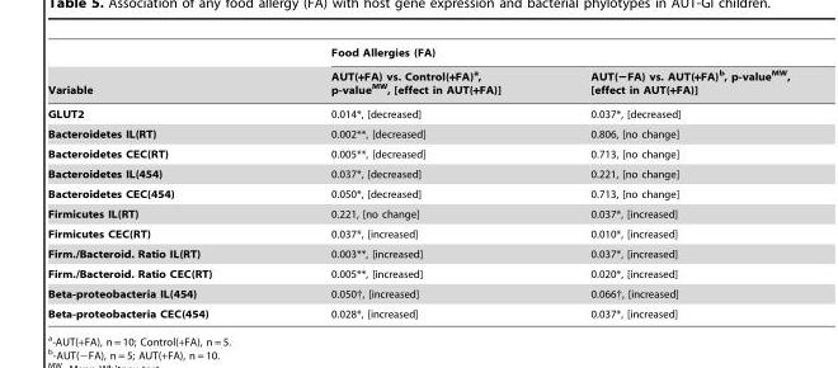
<table><thead><tr><td rowspan="2">Variable</td><td colspan="2">Food Allergies (FA)</td></tr><tr><td>AUT(+FA) vs. Control(+FA)<sup>a</sup>, p-value<sup>MW</sup>, [effect in AUT(+FA)]</td><td>AUT(−FA) vs. AUT(+FA)<sup>b</sup>, p-value<sup>MW</sup>, [effect in AUT(+FA)]</td></tr></thead><tbody><tr><td>GLUT2</td><td>0.014*, [decreased]</td><td>0.037*, [decreased]</td></tr><tr><td>Bacteroidetes IL(RT)</td><td>0.002**, [decreased]</td><td>0.806, [no change]</td></tr><tr><td>Bacteroidetes CEC(RT)</td><td>0.005**, [decreased]</td><td>0.713, [no change]</td></tr><tr><td>Bacteroidetes IL(454)</td><td>0.037*, [decreased]</td><td>0.221, [no change]</td></tr><tr><td>Bacteroidetes CEC(454)</td><td>0.050*, [decreased]</td><td>0.713, [no change]</td></tr><tr><td>Firmicutes IL(RT)</td><td>0.221, [no change]</td><td>0.037*, [increased]</td></tr><tr><td>Firmicutes CEC(RT)</td><td>0.037*, [increased]</td><td>0.010*, [increased]</td></tr><tr><td>Firm./Bacteroid. Ratio IL(RT)</td><td>0.003**, [increased]</td><td>0.037*, [increased]</td></tr><tr><td>Firm./Bacteroid. Ratio CEC(RT)</td><td>0.005**, [increased]</td><td>0.020*, [increased]</td></tr><tr><td>Beta-proteobacteria IL(454)</td><td>0.050†, [increased]</td><td>0.066†, [increased]</td></tr><tr><td>Beta-proteobacteria CEC(454)</td><td>0.028*, [increased]</td><td>0.037*, [increased]</td></tr></tbody></table>